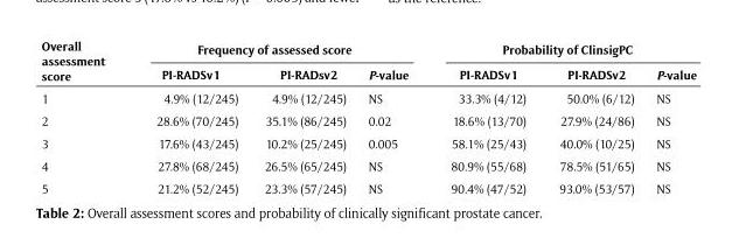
<table><thead><tr><td rowspan="2">Overall assessment score</td><td colspan="3">Frequency of assessed score</td><td colspan="3">Probability of ClinsigPC</td></tr><tr><td>PI-RADSv1</td><td>PI-RADsv2</td><td>P-value</td><td>PI-RADSv1</td><td>PI-RADSv2</td><td>P-value</td></tr></thead><tbody><tr><td>1</td><td>4.9% (12/245)</td><td>4.9% (12/245)</td><td>NS</td><td>33.3% (4/12)</td><td>50.0% (6/12)</td><td>NS</td></tr><tr><td>2</td><td>28.6% (70/245)</td><td>35.1% (86/245)</td><td>0.02</td><td>18.6% (13/70)</td><td>27.9% (24/86)</td><td>NS</td></tr><tr><td>3</td><td>17.6% (43/245)</td><td>10.2% (25/245)</td><td>0.005</td><td>58.1% (25/43)</td><td>40.0% (10/25)</td><td>NS</td></tr><tr><td>4</td><td>27.8% (68/245)</td><td>26.5% (65/245)</td><td>NS</td><td>80.9% (55/68)</td><td>78.5% (51/65)</td><td>NS</td></tr><tr><td>5</td><td>21.2% (52/245)</td><td>23.3% (57/245)</td><td>NS</td><td>90.4% (47/52)</td><td>93.0% (53/57)</td><td>NS</td></tr></tbody></table>